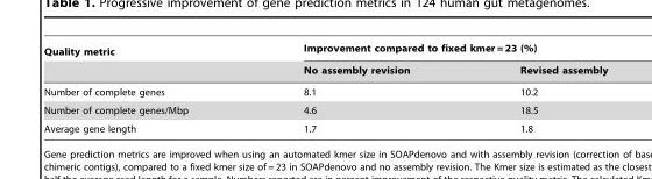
<table><thead><tr><td rowspan="2">Quality metric</td><td colspan="2">Improvement compared to fixed kmer = 23 (%)</td></tr><tr><td>No assembly revision</td><td>Revised assembly</td></tr></thead><tbody><tr><td>Number of complete genes</td><td>8.1</td><td>10.2</td></tr><tr><td>Number of complete genes/Mbp</td><td>4.6</td><td>18.5</td></tr><tr><td>Average gene length</td><td>1.7</td><td>1.8</td></tr></tbody></table>